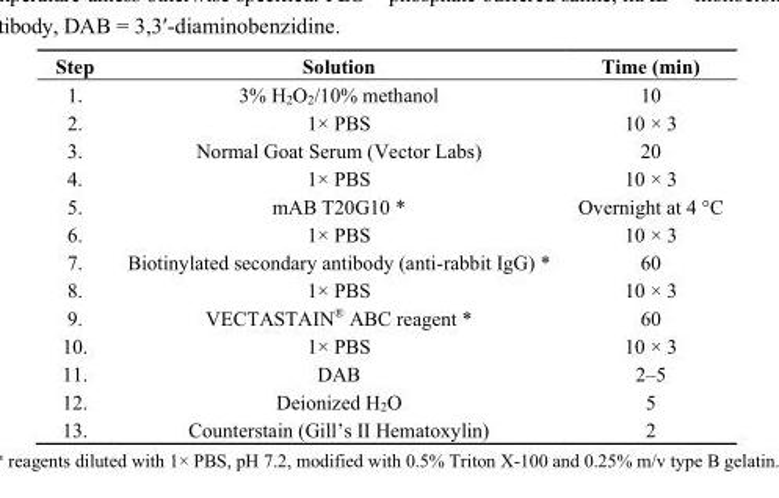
<table><thead><tr><td>Step</td><td>Solution</td><td>Time (min)</td></tr></thead><tbody><tr><td>1.</td><td>3% H<sub>2</sub>O<sub>2</sub>/10% methanol</td><td>10</td></tr><tr><td>2.</td><td>1× PBS</td><td>10 × 3</td></tr><tr><td>3.</td><td>Normal Goat Serum (Vector Labs)</td><td>20</td></tr><tr><td>4.</td><td>1× PBS</td><td>10 × 3</td></tr><tr><td>5.</td><td>mAB T20G10 *</td><td>Overnight at 4 °C</td></tr><tr><td>6.</td><td>1× PBS</td><td>10 × 3</td></tr><tr><td>7.</td><td>Biotinylated secondary antibody (anti-rabbit IgG) *</td><td>60</td></tr><tr><td>8.</td><td>1× PBS</td><td>10 × 3</td></tr><tr><td>9.</td><td>VECTASTAIN<sup>®</sup> ABC reagent *</td><td>60</td></tr><tr><td>10.</td><td>1× PBS</td><td>10 × 3</td></tr><tr><td>11.</td><td>DAB</td><td>2–5</td></tr><tr><td>12.</td><td>Deionized H<sub>2</sub>O</td><td>5</td></tr><tr><td>13.</td><td>Counterstain (Gill’s II Hematoxylin)</td><td>2</td></tr></tbody></table>